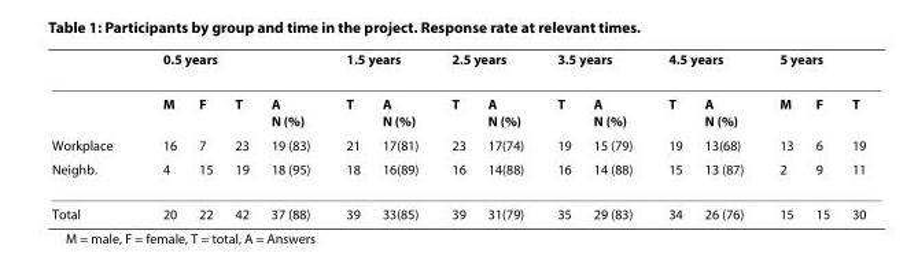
<table><thead><tr><td rowspan="2"></td><td colspan="4">0.5 years</td><td colspan="2">1.5 years</td><td colspan="2">2.5 years</td><td colspan="2">3.5 years</td><td colspan="2">4.5 years</td><td colspan="3">5 years</td></tr><tr><td>M</td><td>F</td><td>T</td><td>A N (%)</td><td>T</td><td>A N (%)</td><td>T</td><td>A N (%)</td><td>T</td><td>A N (%)</td><td>T</td><td>A N (%)</td><td>M</td><td>F</td><td>T</td></tr></thead><tbody><tr><td>Workplace</td><td>16</td><td>7</td><td>23</td><td>19 (83)</td><td>21</td><td>17(81)</td><td>23</td><td>17(74)</td><td>19</td><td>15 (79)</td><td>19</td><td>13(68)</td><td>13</td><td>6</td><td>19</td></tr><tr><td>Neighb.</td><td>4</td><td>15</td><td>19</td><td>18 (95)</td><td>18</td><td>16(89)</td><td>16</td><td>14(88)</td><td>16</td><td>14 (88)</td><td>15</td><td>13 (87)</td><td>2</td><td>9</td><td>11</td></tr><tr><td>Total</td><td>20</td><td>22</td><td>42</td><td>37 (88)</td><td>39</td><td>33(85)</td><td>39</td><td>31(79)</td><td>35</td><td>29 (83)</td><td>34</td><td>26 (76)</td><td>15</td><td>15</td><td>30</td></tr></tbody></table>